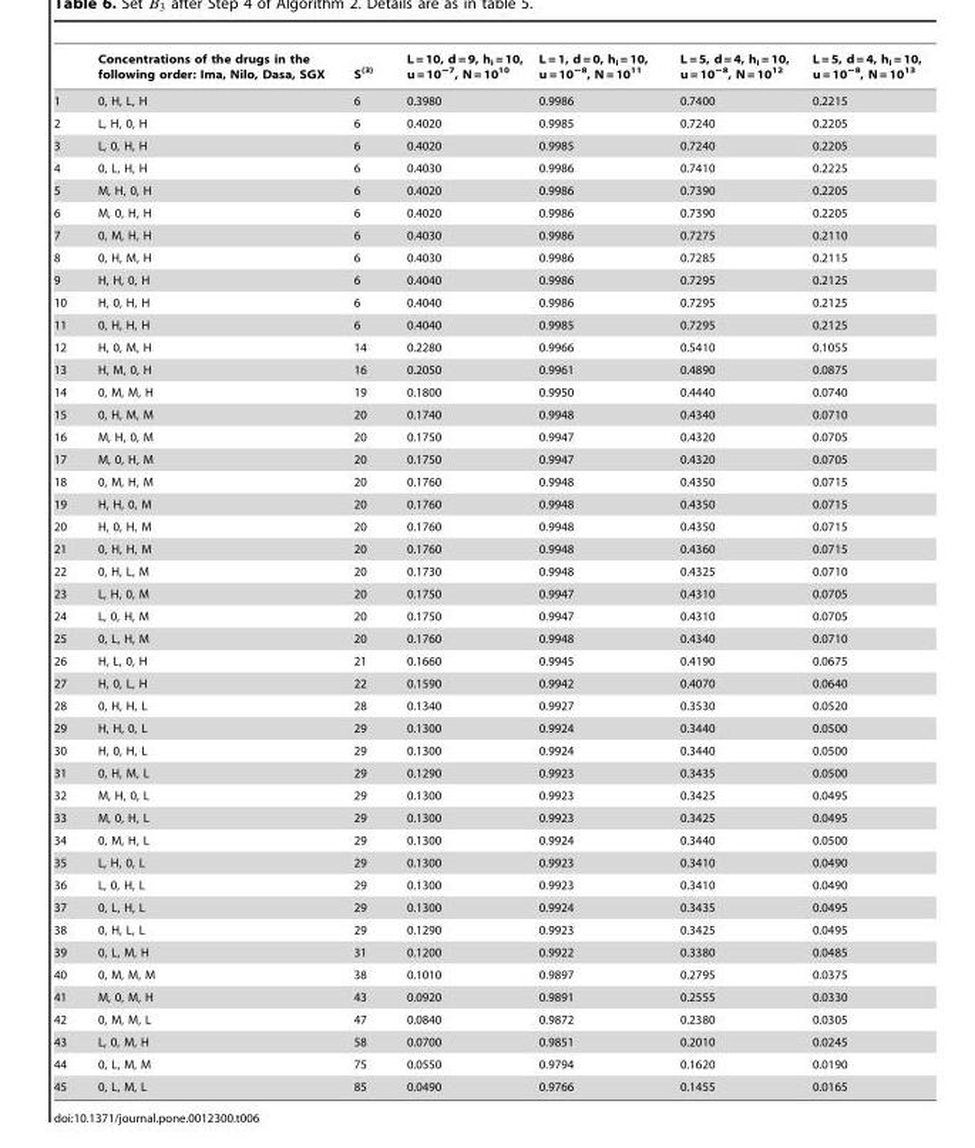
<table><thead><tr><td></td><td>Concentrations of the drugs in the following order: Ima, Nilo, Dasa, SGX</td><td>S<sup>(3)</sup></td><td>L = 10, d = 9, h<sub>i</sub> = 10, u = 10<sup>−7</sup>, N = 10<sup>10</sup></td><td>L = 1, d = 0, h<sub>i</sub> = 10, u = 10<sup>−8</sup>, N = 10<sup>11</sup></td><td>L = 5, d = 4, h<sub>i</sub> = 10, u = 10<sup>−8</sup>, N = 10<sup>12</sup></td><td>L = 5, d = 4, h<sub>i</sub> = 10, u = 10<sup>−8</sup>, N = 10<sup>13</sup></td></tr></thead><tbody><tr><td>1</td><td>0, H, L, H</td><td>6</td><td>0.3980</td><td>0.9986</td><td>0.7400</td><td>0.2215</td></tr><tr><td>2</td><td>L, H, 0, H</td><td>6</td><td>0.4020</td><td>0.9985</td><td>0.7240</td><td>0.2205</td></tr><tr><td>3</td><td>L, 0, H, H</td><td>6</td><td>0.4020</td><td>0.9985</td><td>0.7240</td><td>0.2205</td></tr><tr><td>4</td><td>0, L, H, H</td><td>6</td><td>0.4030</td><td>0.9986</td><td>0.7410</td><td>0.2225</td></tr><tr><td>5</td><td>M, H, 0, H</td><td>6</td><td>0.4020</td><td>0.9986</td><td>0.7390</td><td>0.2205</td></tr><tr><td>6</td><td>M, 0, H, H</td><td>6</td><td>0.4020</td><td>0.9986</td><td>0.7390</td><td>0.2205</td></tr><tr><td>7</td><td>0, M, H, H</td><td>6</td><td>0.4030</td><td>0.9986</td><td>0.7275</td><td>0.2110</td></tr><tr><td>8</td><td>0, H, M, H</td><td>6</td><td>0.4030</td><td>0.9986</td><td>0.7285</td><td>0.2115</td></tr><tr><td>9</td><td>H, H, 0, H</td><td>6</td><td>0.4040</td><td>0.9986</td><td>0.7295</td><td>0.2125</td></tr><tr><td>10</td><td>H, 0, H, H</td><td>6</td><td>0.4040</td><td>0.9986</td><td>0.7295</td><td>0.2125</td></tr><tr><td>11</td><td>0, H, H, H</td><td>6</td><td>0.4040</td><td>0.9985</td><td>0.7295</td><td>0.2125</td></tr><tr><td>12</td><td>H, 0, M, H</td><td>14</td><td>0.2280</td><td>0.9966</td><td>0.5410</td><td>0.1055</td></tr><tr><td>13</td><td>H, M, 0, H</td><td>16</td><td>0.2050</td><td>0.9961</td><td>0.4890</td><td>0.0875</td></tr><tr><td>14</td><td>0, M, M, H</td><td>19</td><td>0.1800</td><td>0.9950</td><td>0.4440</td><td>0.0740</td></tr><tr><td>15</td><td>0, H, M, M</td><td>20</td><td>0.1740</td><td>0.9948</td><td>0.4340</td><td>0.0710</td></tr><tr><td>16</td><td>M, H, 0, M</td><td>20</td><td>0.1750</td><td>0.9947</td><td>0.4320</td><td>0.0705</td></tr><tr><td>17</td><td>M, 0, H, M</td><td>20</td><td>0.1750</td><td>0.9947</td><td>0.4320</td><td>0.0705</td></tr><tr><td>18</td><td>0, M, H, M</td><td>20</td><td>0.1760</td><td>0.9948</td><td>0.4350</td><td>0.0715</td></tr><tr><td>19</td><td>H, H, 0, M</td><td>20</td><td>0.1760</td><td>0.9948</td><td>0.4350</td><td>0.0715</td></tr><tr><td>20</td><td>H, 0, H, M</td><td>20</td><td>0.1760</td><td>0.9948</td><td>0.4350</td><td>0.0715</td></tr><tr><td>21</td><td>0, H, H, M</td><td>20</td><td>0.1760</td><td>0.9948</td><td>0.4360</td><td>0.0715</td></tr><tr><td>22</td><td>0, H, L, M</td><td>20</td><td>0.1730</td><td>0.9948</td><td>0.4325</td><td>0.0710</td></tr><tr><td>23</td><td>L, H, 0, M</td><td>20</td><td>0.1750</td><td>0.9947</td><td>0.4310</td><td>0.0705</td></tr><tr><td>24</td><td>L, 0, H, M</td><td>20</td><td>0.1750</td><td>0.9947</td><td>0.4310</td><td>0.0705</td></tr><tr><td>25</td><td>0, L, H, M</td><td>20</td><td>0.1760</td><td>0.9948</td><td>0.4340</td><td>0.0710</td></tr><tr><td>26</td><td>H, L, 0, H</td><td>21</td><td>0.1660</td><td>0.9945</td><td>0.4190</td><td>0.0675</td></tr><tr><td>27</td><td>H, 0, L, H</td><td>22</td><td>0.1590</td><td>0.9942</td><td>0.4070</td><td>0.0640</td></tr><tr><td>28</td><td>0, H, H, L</td><td>28</td><td>0.1340</td><td>0.9927</td><td>0.3530</td><td>0.0520</td></tr><tr><td>29</td><td>H, H, 0, L</td><td>29</td><td>0.1300</td><td>0.9924</td><td>0.3440</td><td>0.0500</td></tr><tr><td>30</td><td>H, 0, H, L</td><td>29</td><td>0.1300</td><td>0.9924</td><td>0.3440</td><td>0.0500</td></tr><tr><td>31</td><td>0, H, M, L</td><td>29</td><td>0.1290</td><td>0.9923</td><td>0.3435</td><td>0.0500</td></tr><tr><td>32</td><td>M, H, 0, L</td><td>29</td><td>0.1300</td><td>0.9923</td><td>0.3425</td><td>0.0495</td></tr><tr><td>33</td><td>M, 0, H, L</td><td>29</td><td>0.1300</td><td>0.9923</td><td>0.3425</td><td>0.0495</td></tr><tr><td>34</td><td>0, M, H, L</td><td>29</td><td>0.1300</td><td>0.9924</td><td>0.3440</td><td>0.0500</td></tr><tr><td>35</td><td>L, H, 0, L</td><td>29</td><td>0.1300</td><td>0.9923</td><td>0.3410</td><td>0.0490</td></tr><tr><td>36</td><td>L, 0, H, L</td><td>29</td><td>0.1300</td><td>0.9923</td><td>0.3410</td><td>0.0490</td></tr><tr><td>37</td><td>0, L, H, L</td><td>29</td><td>0.1300</td><td>0.9924</td><td>0.3435</td><td>0.0495</td></tr><tr><td>38</td><td>0, H, L, L</td><td>29</td><td>0.1290</td><td>0.9923</td><td>0.3425</td><td>0.0495</td></tr><tr><td>39</td><td>0, L, M, H</td><td>31</td><td>0.1200</td><td>0.9922</td><td>0.3380</td><td>0.0485</td></tr><tr><td>40</td><td>0, M, M, M</td><td>38</td><td>0.1010</td><td>0.9897</td><td>0.2795</td><td>0.0375</td></tr><tr><td>41</td><td>M, 0, M, H</td><td>43</td><td>0.0920</td><td>0.9891</td><td>0.2555</td><td>0.0330</td></tr><tr><td>42</td><td>0, M, M, L</td><td>47</td><td>0.0840</td><td>0.9872</td><td>0.2380</td><td>0.0305</td></tr><tr><td>43</td><td>L, 0, M, H</td><td>58</td><td>0.0700</td><td>0.9851</td><td>0.2010</td><td>0.0245</td></tr><tr><td>44</td><td>0, L, M, M</td><td>75</td><td>0.0550</td><td>0.9794</td><td>0.1620</td><td>0.0190</td></tr><tr><td>45</td><td>0, L, M, L</td><td>85</td><td>0.0490</td><td>0.9766</td><td>0.1455</td><td>0.0165</td></tr></tbody></table>